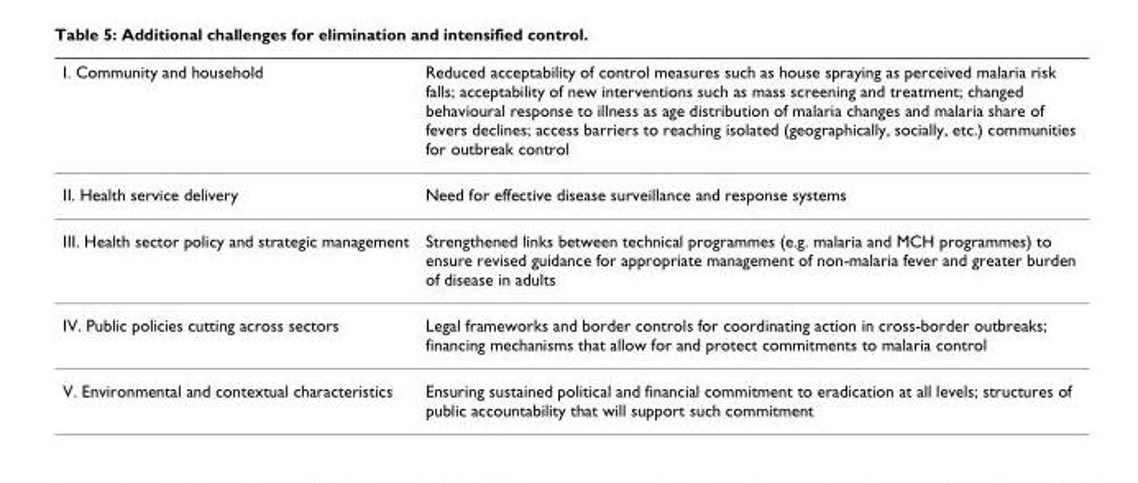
<table><thead><tr><td>I. Community and household</td><td>Reduced acceptability of control measures such as house spraying as perceived malaria risk falls; acceptability of new interventions such as mass screening and treatment; changed behavioural response to illness as age distribution of malaria changes and malaria share of fevers declines; access barriers to reaching isolated (geographically, socially, etc.) communities for outbreak control</td></tr></thead><tbody><tr><td>II. Health service delivery</td><td>Need for effective disease surveillance and response systems</td></tr><tr><td>III. Health sector policy and strategic management</td><td>Strengthened links between technical programmes (e.g. malaria and MCH programmes) to ensure revised guidance for appropriate management of non-malaria fever and greater burden of disease in adults</td></tr><tr><td>IV. Public policies cutting across sectors</td><td>Legal frameworks and border controls for coordinating action in cross-border outbreaks; financing mechanisms that allow for and protect commitments to malaria control</td></tr><tr><td>V. Environmental and contextual characteristics</td><td>Ensuring sustained political and financial commitment to eradication at all levels; structures of public accountability that will support such commitment</td></tr></tbody></table>